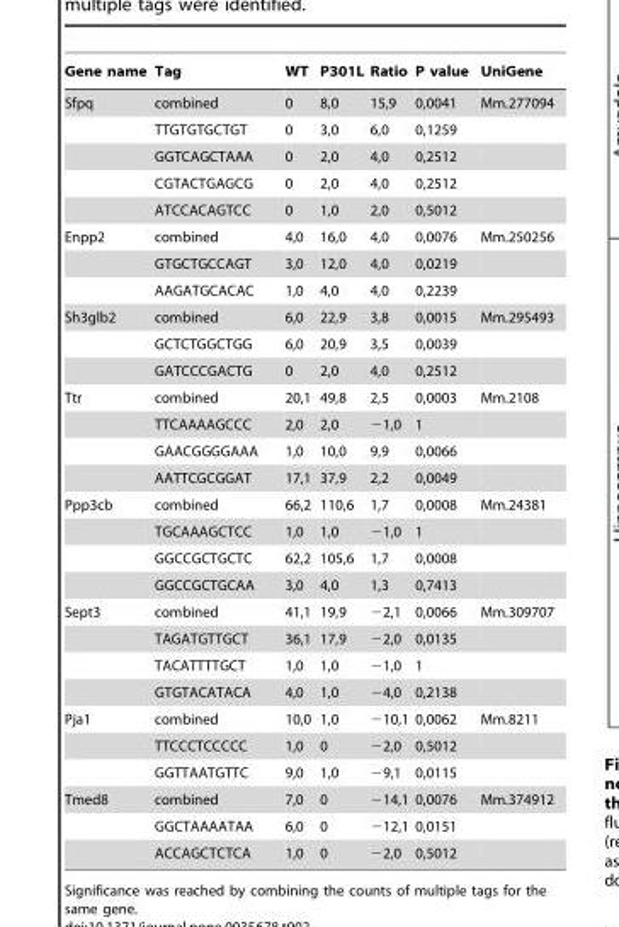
<table><thead><tr><td>Gene name</td><td>Tag</td><td>WT</td><td>P301L</td><td>Ratio</td><td>P value</td><td>UniGene</td></tr></thead><tbody><tr><td rowspan="5">Sfpq</td><td>combined</td><td>0</td><td>8,0</td><td>15,9</td><td>0,0041</td><td>Mm.277094</td></tr><tr><td>TTGTGTGCTGT</td><td>0</td><td>3,0</td><td>6,0</td><td>0,1259</td><td></td></tr><tr><td>GGTCAGCTAAA</td><td>0</td><td>2,0</td><td>4,0</td><td>0,2512</td><td></td></tr><tr><td>CGTACTGAGCG</td><td>0</td><td>2,0</td><td>4,0</td><td>0,2512</td><td></td></tr><tr><td>ATCCACAGTCC</td><td>0</td><td>1,0</td><td>2,0</td><td>0,5012</td><td></td></tr><tr><td rowspan="3">Enpp2</td><td>combined</td><td>4,0</td><td>16,0</td><td>4,0</td><td>0,0076</td><td>Mm.250256</td></tr><tr><td>GTGCTGCCAGT</td><td>3,0</td><td>12,0</td><td>4,0</td><td>0,0219</td><td></td></tr><tr><td>AAGATGCACAC</td><td>1,0</td><td>4,0</td><td>4,0</td><td>0,2239</td><td></td></tr><tr><td rowspan="3">Sh3glb2</td><td>combined</td><td>6,0</td><td>22,9</td><td>3,8</td><td>0,0015</td><td>Mm.295493</td></tr><tr><td>GCTCTGGCTGG</td><td>6,0</td><td>20,9</td><td>3,5</td><td>0,0039</td><td></td></tr><tr><td>GATCCCGACTG</td><td>0</td><td>2,0</td><td>4,0</td><td>0,2512</td><td></td></tr><tr><td rowspan="4">Ttr</td><td>combined</td><td>20,1</td><td>49,8</td><td>2,5</td><td>0,0003</td><td>Mm.2108</td></tr><tr><td>TTCAAAAGCCC</td><td>2,0</td><td>2,0</td><td>−1,0</td><td>1</td><td></td></tr><tr><td>GAACGGGGAAA</td><td>1,0</td><td>10,0</td><td>9,9</td><td>0,0066</td><td></td></tr><tr><td>AATTCGCGGAT</td><td>17,1</td><td>37,9</td><td>2,2</td><td>0,0049</td><td></td></tr><tr><td rowspan="4">Ppp3cb</td><td>combined</td><td>66,2</td><td>110,6</td><td>1,7</td><td>0,0008</td><td>Mm.24381</td></tr><tr><td>TGCAAAGCTCC</td><td>1,0</td><td>1,0</td><td>−1,0</td><td>1</td><td></td></tr><tr><td>GGCCGCTGCTC</td><td>62,2</td><td>105,6</td><td>1,7</td><td>0,0008</td><td></td></tr><tr><td>GGCCGCTGCAA</td><td>3,0</td><td>4,0</td><td>1,3</td><td>0,7413</td><td></td></tr><tr><td rowspan="4">Sept3</td><td>combined</td><td>41,1</td><td>19,9</td><td>−2,1</td><td>0,0066</td><td>Mm.309707</td></tr><tr><td>TAGATGTTGCT</td><td>36,1</td><td>17,9</td><td>−2,0</td><td>0,0135</td><td></td></tr><tr><td>TACATTTTGCT</td><td>1,0</td><td>1,0</td><td>−1,0</td><td>1</td><td></td></tr><tr><td>GTGTACATACA</td><td>4,0</td><td>1,0</td><td>−4,0</td><td>0,2138</td><td></td></tr><tr><td rowspan="3">Pja1</td><td>combined</td><td>10,0</td><td>1,0</td><td>−10,1</td><td>0,0062</td><td>Mm.8211</td></tr><tr><td>TTCCCTCCCCC</td><td>1,0</td><td>0</td><td>−2,0</td><td>0,5012</td><td></td></tr><tr><td>GGTTAATGTTC</td><td>9,0</td><td>1,0</td><td>−9,1</td><td>0,0115</td><td></td></tr><tr><td rowspan="3">Tmed8</td><td>combined</td><td>7,0</td><td>0</td><td>−14,1</td><td>0,0076</td><td>Mm.374912</td></tr><tr><td>GGCTAAAATAA</td><td>6,0</td><td>0</td><td>−12,1</td><td>0,0151</td><td></td></tr><tr><td>ACCAGCTCTCA</td><td>1,0</td><td>0</td><td>−2,0</td><td>0,5012</td><td></td></tr></tbody></table>